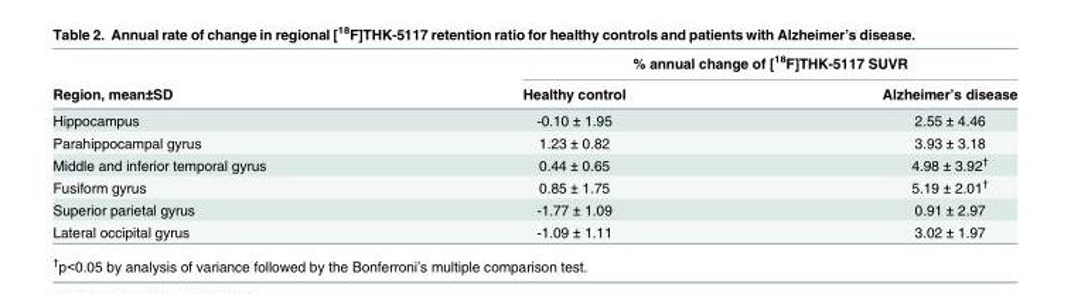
<table><thead><tr><td rowspan="2">Region, mean±SD</td><td colspan="2">% annual change of [<sup>18</sup>F]THK-5117 SUVR</td></tr><tr><td>Healthy control</td><td>Alzheimer’s disease</td></tr></thead><tbody><tr><td>Hippocampus</td><td>-0.10 ± 1.95</td><td>2.55 ± 4.46</td></tr><tr><td>Parahippocampal gyrus</td><td>1.23 ± 0.82</td><td>3.93 ± 3.18</td></tr><tr><td>Middle and inferior temporal gyrus</td><td>0.44 ± 0.65</td><td>4.98 ± 3.92<sup>†</sup></td></tr><tr><td>Fusiform gyrus</td><td>0.85 ± 1.75</td><td>5.19 ± 2.01<sup>†</sup></td></tr><tr><td>Superior parietal gyrus</td><td>-1.77 ± 1.09</td><td>0.91 ± 2.97</td></tr><tr><td>Lateral occipital gyrus</td><td>-1.09 ± 1.11</td><td>3.02 ± 1.97</td></tr></tbody></table>